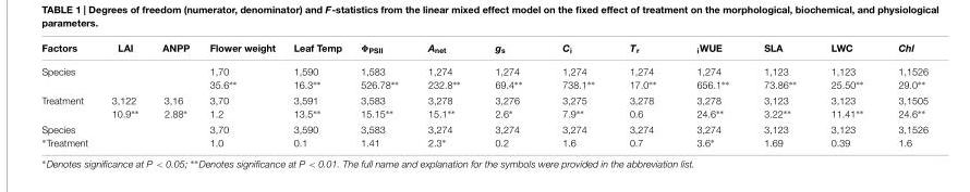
<table><thead><tr><td>Factors</td><td>LAI</td><td>ANPP</td><td>Flower weight</td><td>Leaf Temp</td><td>Φ<sub>PSII</sub></td><td>A<sub>net</sub></td><td>g<sub>s</sub></td><td>C<sub>i</sub></td><td>T<sub>r</sub></td><td><sub>i</sub>WUE</td><td>SLA</td><td>LWC</td><td>Chl</td></tr></thead><tbody><tr><td>Species</td><td></td><td></td><td>1,70 35.6∗∗</td><td>1,590 16.3∗∗</td><td>1,583 526.78∗∗</td><td>1,274 232.8∗∗</td><td>1,274 69.4∗∗</td><td>1,274 738.1∗∗</td><td>1,274 17.0∗∗</td><td>1,274 656.1∗∗</td><td>1,123 73.86∗∗</td><td>1,123 25.50∗∗</td><td>1,1526 29.0∗∗</td></tr><tr><td>Treatment</td><td>3,122 10.9∗∗</td><td>3,16 2.88∗</td><td>3,70 1.2</td><td>3,591 13.5∗∗</td><td>3,583 15.15∗∗</td><td>3,278 15.1∗∗</td><td>3,276 2.6∗</td><td>3,275 7.9∗∗</td><td>3,278 0.6</td><td>3,278 24.6∗∗</td><td>3,123 3.22∗∗</td><td>3,123 11.41∗∗</td><td>3,1505 24.6∗∗</td></tr><tr><td>Species ∗Treatment</td><td></td><td></td><td>3,70 1.0</td><td>3,590 0.1</td><td>3,583 1.41</td><td>3,274 2.3∗</td><td>3,274 0.2</td><td>3,274 1.6</td><td>3,274 0.7</td><td>3,274 3.6∗</td><td>3,123 1.69</td><td>3,123 0.39</td><td>3,1526 1.6</td></tr></tbody></table>